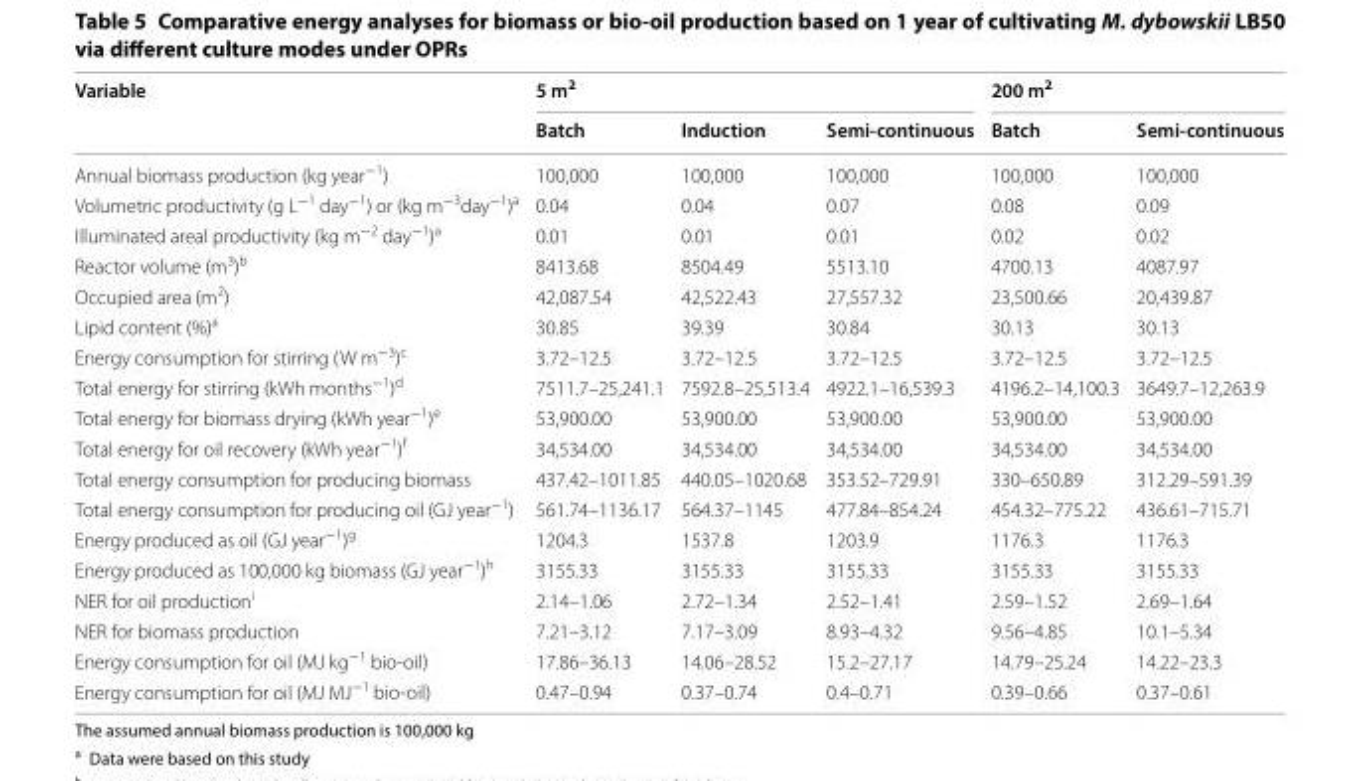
<table><thead><tr><td rowspan="2">Variable</td><td colspan="3">5 m<sup>2</sup></td><td colspan="2">200 m<sup>2</sup></td></tr><tr><td>Batch</td><td>Induction</td><td>Semi‑continuous</td><td>Batch</td><td>Semi‑continuous</td></tr></thead><tbody><tr><td>Annual biomass production (kg year<sup>−1</sup>)</td><td>100,000</td><td>100,000</td><td>100,000</td><td>100,000</td><td>100,000</td></tr><tr><td>Volumetric productivity (g L<sup>−1</sup> day<sup>−1</sup>) or (kg m<sup>−3</sup>day<sup>−1</sup>)<sup>a</sup></td><td>0.04</td><td>0.04</td><td>0.07</td><td>0.08</td><td>0.09</td></tr><tr><td>Illuminated areal productivity (kg m<sup>−2</sup> day<sup>−1</sup>)<sup>a</sup></td><td>0.01</td><td>0.01</td><td>0.01</td><td>0.02</td><td>0.02</td></tr><tr><td>Reactor volume (m<sup>3</sup>)<sup>b</sup></td><td>8413.68</td><td>8504.49</td><td>5513.10</td><td>4700.13</td><td>4087.97</td></tr><tr><td>Occupied area (m<sup>2</sup>)</td><td>42,087.54</td><td>42,522.43</td><td>27,557.32</td><td>23,500.66</td><td>20,439.87</td></tr><tr><td>Lipid content (%)<sup>a</sup></td><td>30.85</td><td>39.39</td><td>30.84</td><td>30.13</td><td>30.13</td></tr><tr><td>Energy consumption for stirring (W m<sup>−3</sup>)<sup>c</sup></td><td>3.72–12.5</td><td>3.72–12.5</td><td>3.72–12.5</td><td>3.72–12.5</td><td>3.72–12.5</td></tr><tr><td>Total energy for stirring (kWh months<sup>−1</sup>)<sup>d</sup></td><td>7511.7–25,241.1</td><td>7592.8–25,513.4</td><td>4922.1–16,539.3</td><td>4196.2–14,100.3</td><td>3649.7–12,263.9</td></tr><tr><td>Total energy for biomass drying (kWh year<sup>−1</sup>)<sup>e</sup></td><td>53,900.00</td><td>53,900.00</td><td>53,900.00</td><td>53,900.00</td><td>53,900.00</td></tr><tr><td>Total energy for oil recovery (kWh year<sup>−1</sup>)<sup>f</sup></td><td>34,534.00</td><td>34,534.00</td><td>34,534.00</td><td>34,534.00</td><td>34,534.00</td></tr><tr><td>Total energy consumption for producing biomass</td><td>437.42–1011.85</td><td>440.05–1020.68</td><td>353.52–729.91</td><td>330–650.89</td><td>312.29–591.39</td></tr><tr><td>Total energy consumption for producing oil (GJ year<sup>−1</sup>)</td><td>561.74–1136.17</td><td>564.37–1145</td><td>477.84–854.24</td><td>454.32–775.22</td><td>436.61–715.71</td></tr><tr><td>Energy produced as oil (GJ year<sup>−1</sup>)<sup>g</sup></td><td>1204.3</td><td>1537.8</td><td>1203.9</td><td>1176.3</td><td>1176.3</td></tr><tr><td>Energy produced as 100,000 kg biomass (GJ year<sup>−1</sup>)<sup>h</sup></td><td>3155.33</td><td>3155.33</td><td>3155.33</td><td>3155.33</td><td>3155.33</td></tr><tr><td>NER for oil production<sup>i</sup></td><td>2.14–1.06</td><td>2.72–1.34</td><td>2.52–1.41</td><td>2.59–1.52</td><td>2.69–1.64</td></tr><tr><td>NER for biomass production</td><td>7.21–3.12</td><td>7.17–3.09</td><td>8.93–4.32</td><td>9.56–4.85</td><td>10.1–5.34</td></tr><tr><td>Energy consumption for oil (MJ kg<sup>−1</sup> bio-oil)</td><td>17.86–36.13</td><td>14.06–28.52</td><td>15.2–27.17</td><td>14.79–25.24</td><td>14.22–23.3</td></tr><tr><td>Energy consumption for oil (MJ MJ<sup>−1</sup> bio-oil)</td><td>0.47–0.94</td><td>0.37–0.74</td><td>0.4–0.71</td><td>0.39–0.66</td><td>0.37–0.61</td></tr></tbody></table>